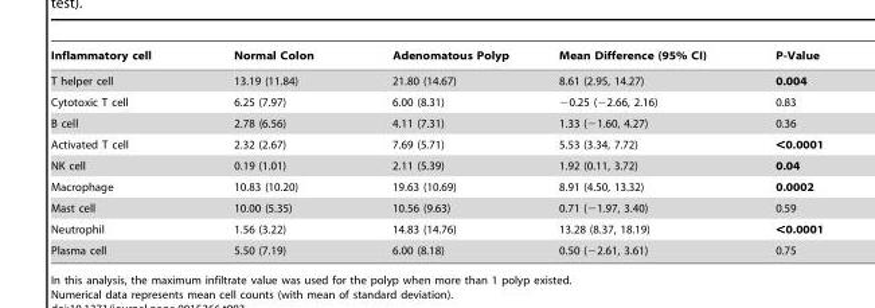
<table><thead><tr><td>Inflammatory cell</td><td>Normal Colon</td><td>Adenomatous Polyp</td><td>Mean Difference (95% CI)</td><td>P-Value</td></tr></thead><tbody><tr><td>T helper cell</td><td>13.19 (11.84)</td><td>21.80 (14.67)</td><td>8.61 (2.95, 14.27)</td><td>0.004</td></tr><tr><td>Cytotoxic T cell</td><td>6.25 (7.97)</td><td>6.00 (8.31)</td><td>−0.25 (−2.66, 2.16)</td><td>0.83</td></tr><tr><td>B cell</td><td>2.78 (6.56)</td><td>4.11 (7.31)</td><td>1.33 (−1.60, 4.27)</td><td>0.36</td></tr><tr><td>Activated T cell</td><td>2.32 (2.67)</td><td>7.69 (5.71)</td><td>5.53 (3.34, 7.72)</td><td>&lt;0.0001</td></tr><tr><td>NK cell</td><td>0.19 (1.01)</td><td>2.11 (5.39)</td><td>1.92 (0.11, 3.72)</td><td>0.04</td></tr><tr><td>Macrophage</td><td>10.83 (10.20)</td><td>19.63 (10.69)</td><td>8.91 (4.50, 13.32)</td><td>0.0002</td></tr><tr><td>Mast cell</td><td>10.00 (5.35)</td><td>10.56 (9.63)</td><td>0.71 (−1.97, 3.40)</td><td>0.59</td></tr><tr><td>Neutrophil</td><td>1.56 (3.22)</td><td>14.83 (14.76)</td><td>13.28 (8.37, 18.19)</td><td>&lt;0.0001</td></tr><tr><td>Plasma cell</td><td>5.50 (7.19)</td><td>6.00 (8.18)</td><td>0.50 (−2.61, 3.61)</td><td>0.75</td></tr></tbody></table>